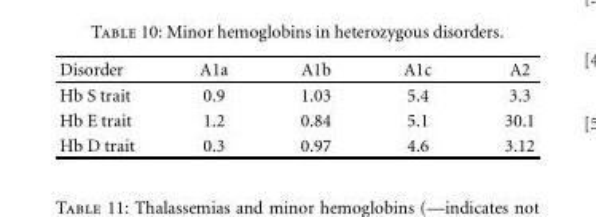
<table><thead><tr><td>Disorder</td><td>A1a</td><td>A1b</td><td>A1c</td><td>A2</td></tr></thead><tbody><tr><td>Hb S trait</td><td>0.9</td><td>1.03</td><td>5.4</td><td>3.3</td></tr><tr><td>Hb E trait</td><td>1.2</td><td>0.84</td><td>5.1</td><td>30.1</td></tr><tr><td>Hb D trait</td><td>0.3</td><td>0.97</td><td>4.6</td><td>3.12</td></tr></tbody></table>